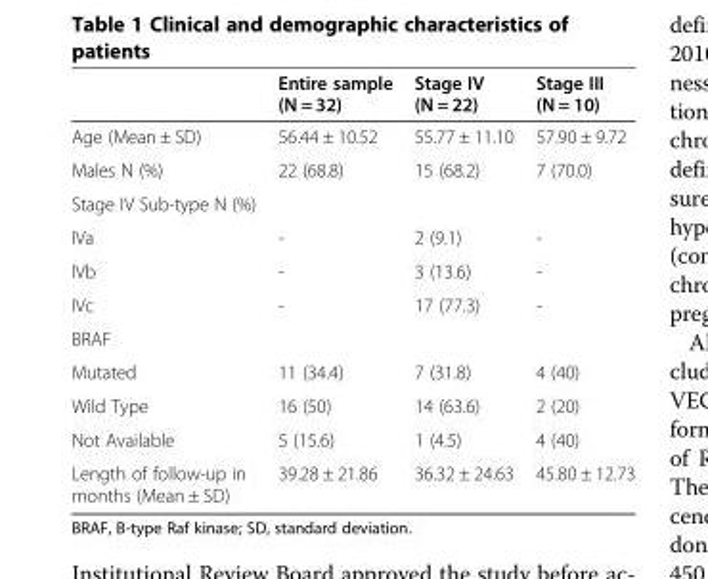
<table><thead><tr><td></td><td>Entire sample (N = 32)</td><td>Stage IV (N = 22)</td><td>Stage III (N = 10)</td></tr></thead><tbody><tr><td>Age (Mean ± SD)</td><td>56.44 ± 10.52</td><td>55.77 ± 11.10</td><td>57.90 ± 9.72</td></tr><tr><td>Males N (%)</td><td>22 (68.8)</td><td>15 (68.2)</td><td>7 (70.0)</td></tr><tr><td colspan="4">Stage IV Sub-type N (%)</td></tr><tr><td>IVa</td><td>-</td><td>2 (9.1)</td><td>-</td></tr><tr><td>IVb</td><td>-</td><td>3 (13.6)</td><td>-</td></tr><tr><td>IVc</td><td>-</td><td>17 (77.3)</td><td>-</td></tr><tr><td colspan="4">BRAF</td></tr><tr><td>Mutated</td><td>11 (34.4)</td><td>7 (31.8)</td><td>4 (40)</td></tr><tr><td>Wild Type</td><td>16 (50)</td><td>14 (63.6)</td><td>2 (20)</td></tr><tr><td>Not Available</td><td>5 (15.6)</td><td>1 (4.5)</td><td>4 (40)</td></tr><tr><td>Length of follow-up in months (Mean ± SD)</td><td>39.28 ± 21.86</td><td>36.32 ± 24.63</td><td>45.80 ± 12.73</td></tr></tbody></table>